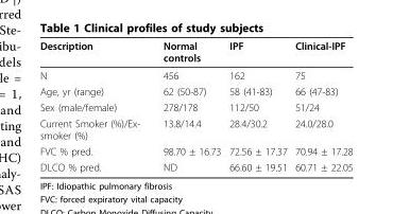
<table><thead><tr><td>Description</td><td>Normal controls</td><td>IPF</td><td>Clinical-IPF</td></tr></thead><tbody><tr><td>N</td><td>456</td><td>162</td><td>75</td></tr><tr><td>Age, yr (range)</td><td>62 (50-87)</td><td>58 (41-83)</td><td>66 (47-83)</td></tr><tr><td>Sex (male/female)</td><td>278/178</td><td>112/50</td><td>51/24</td></tr><tr><td>Current Smoker (%)/Ex- smoker (%)</td><td>13.8/14.4</td><td>28.4/30.2</td><td>24.0/28.0</td></tr><tr><td>FVC % pred.</td><td>98.70 ± 16.73</td><td>72.56 ± 17.37</td><td>70.94 ± 17.28</td></tr><tr><td>DLCO % pred.</td><td>ND</td><td>66.60 ± 19.51</td><td>60.71 ± 22.05</td></tr></tbody></table>